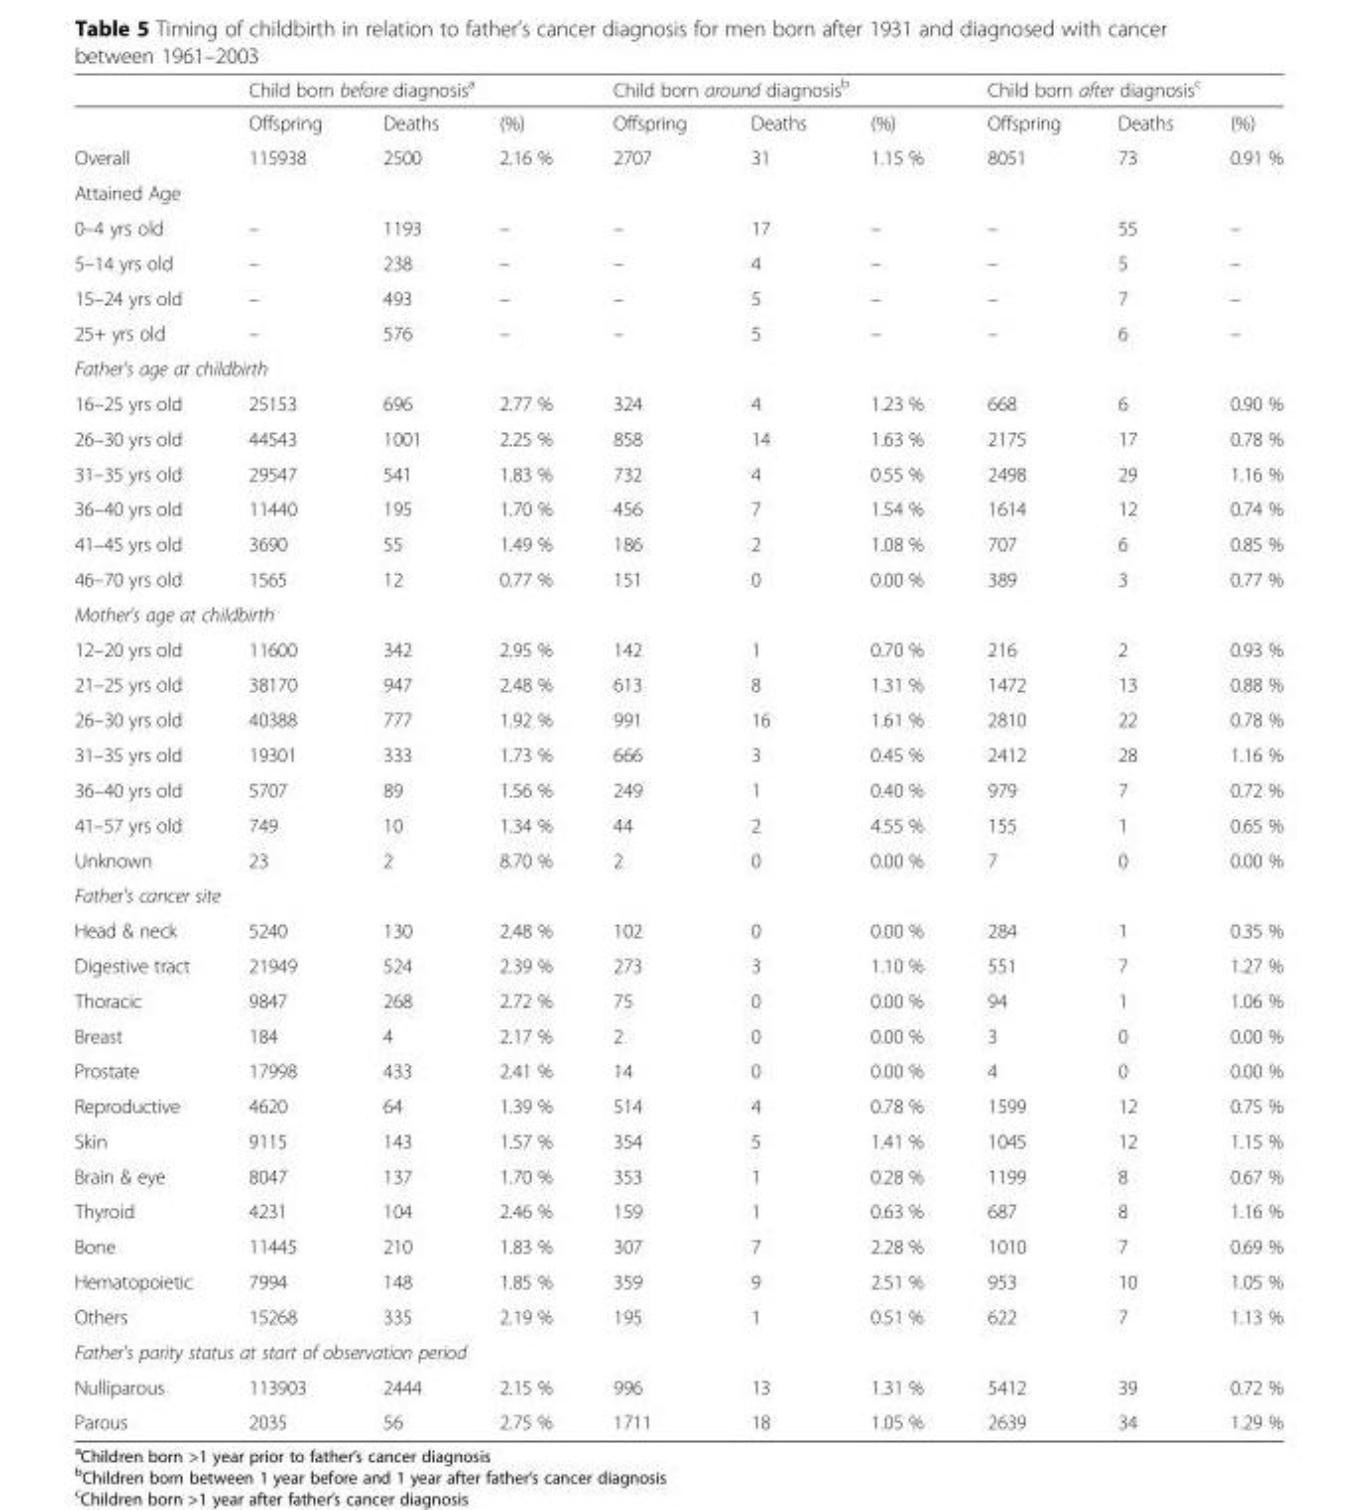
<table><thead><tr><td rowspan="2"></td><td colspan="3">Child born before diagnosis<sup>a</sup></td><td colspan="3">Child born around diagnosis<sup>b</sup></td><td colspan="3">Child born after diagnosis<sup>c</sup></td></tr><tr><td>Offspring</td><td>Deaths</td><td>(%)</td><td>Offspring</td><td>Deaths</td><td>(%)</td><td>Offspring</td><td>Deaths</td><td>(%)</td></tr></thead><tbody><tr><td>Overall</td><td>115938</td><td>2500</td><td>2.16 %</td><td>2707</td><td>31</td><td>1.15 %</td><td>8051</td><td>73</td><td>0.91 %</td></tr><tr><td colspan="10">Attained Age</td></tr><tr><td>0–4 yrs old</td><td>–</td><td>1193</td><td>–</td><td>–</td><td>17</td><td>–</td><td>–</td><td>55</td><td>–</td></tr><tr><td>5–14 yrs old</td><td>–</td><td>238</td><td>–</td><td>–</td><td>4</td><td>–</td><td>–</td><td>5</td><td>–</td></tr><tr><td>15–24 yrs old</td><td>–</td><td>493</td><td>–</td><td>–</td><td>5</td><td>–</td><td>–</td><td>7</td><td>–</td></tr><tr><td>25+ yrs old</td><td>–</td><td>576</td><td>–</td><td>–</td><td>5</td><td>–</td><td>–</td><td>6</td><td>–</td></tr><tr><td colspan="10">Father&#x27;s age at childbirth</td></tr><tr><td>16–25 yrs old</td><td>25153</td><td>696</td><td>2.77 %</td><td>324</td><td>4</td><td>1.23 %</td><td>668</td><td>6</td><td>0.90 %</td></tr><tr><td>26–30 yrs old</td><td>44543</td><td>1001</td><td>2.25 %</td><td>858</td><td>14</td><td>1.63 %</td><td>2175</td><td>17</td><td>0.78 %</td></tr><tr><td>31–35 yrs old</td><td>29547</td><td>541</td><td>1.83 %</td><td>732</td><td>4</td><td>0.55 %</td><td>2498</td><td>29</td><td>1.16 %</td></tr><tr><td>36–40 yrs old</td><td>11440</td><td>195</td><td>1.70 %</td><td>456</td><td>7</td><td>1.54 %</td><td>1614</td><td>12</td><td>0.74 %</td></tr><tr><td>41–45 yrs old</td><td>3690</td><td>55</td><td>1.49 %</td><td>186</td><td>2</td><td>1.08 %</td><td>707</td><td>6</td><td>0.85 %</td></tr><tr><td>46–70 yrs old</td><td>1565</td><td>12</td><td>0.77 %</td><td>151</td><td>0</td><td>0.00 %</td><td>389</td><td>3</td><td>0.77 %</td></tr><tr><td colspan="10">Mother&#x27;s age at childbirth</td></tr><tr><td>12–20 yrs old</td><td>11600</td><td>342</td><td>2.95 %</td><td>142</td><td>1</td><td>0.70 %</td><td>216</td><td>2</td><td>0.93 %</td></tr><tr><td>21–25 yrs old</td><td>38170</td><td>947</td><td>2.48 %</td><td>613</td><td>8</td><td>1.31 %</td><td>1472</td><td>13</td><td>0.88 %</td></tr><tr><td>26–30 yrs old</td><td>40388</td><td>777</td><td>1.92 %</td><td>991</td><td>16</td><td>1.61 %</td><td>2810</td><td>22</td><td>0.78 %</td></tr><tr><td>31–35 yrs old</td><td>19301</td><td>333</td><td>1.73 %</td><td>666</td><td>3</td><td>0.45 %</td><td>2412</td><td>28</td><td>1.16 %</td></tr><tr><td>36–40 yrs old</td><td>5707</td><td>89</td><td>1.56 %</td><td>249</td><td>1</td><td>0.40 %</td><td>979</td><td>7</td><td>0.72 %</td></tr><tr><td>41–57 yrs old</td><td>749</td><td>10</td><td>1.34 %</td><td>44</td><td>2</td><td>4.55 %</td><td>155</td><td>1</td><td>0.65 %</td></tr><tr><td>Unknown</td><td>23</td><td>2</td><td>8.70 %</td><td>2</td><td>0</td><td>0.00 %</td><td>7</td><td>0</td><td>0.00 %</td></tr><tr><td colspan="10">Father&#x27;s cancer site</td></tr><tr><td>Head &amp; neck</td><td>5240</td><td>130</td><td>2.48 %</td><td>102</td><td>0</td><td>0.00 %</td><td>284</td><td>1</td><td>0.35 %</td></tr><tr><td>Digestive tract</td><td>21949</td><td>524</td><td>2.39 %</td><td>273</td><td>3</td><td>1.10 %</td><td>551</td><td>7</td><td>1.27 %</td></tr><tr><td>Thoracic</td><td>9847</td><td>268</td><td>2.72 %</td><td>75</td><td>0</td><td>0.00 %</td><td>94</td><td>1</td><td>1.06 %</td></tr><tr><td>Breast</td><td>184</td><td>4</td><td>2.17 %</td><td>2</td><td>0</td><td>0.00 %</td><td>3</td><td>0</td><td>0.00 %</td></tr><tr><td>Prostate</td><td>17998</td><td>433</td><td>2.41 %</td><td>14</td><td>0</td><td>0.00 %</td><td>4</td><td>0</td><td>0.00 %</td></tr><tr><td>Reproductive</td><td>4620</td><td>64</td><td>1.39 %</td><td>514</td><td>4</td><td>0.78 %</td><td>1599</td><td>12</td><td>0.75 %</td></tr><tr><td>Skin</td><td>9115</td><td>143</td><td>1.57 %</td><td>354</td><td>5</td><td>1.41 %</td><td>1045</td><td>12</td><td>1.15 %</td></tr><tr><td>Brain &amp; eye</td><td>8047</td><td>137</td><td>1.70 %</td><td>353</td><td>1</td><td>0.28 %</td><td>1199</td><td>8</td><td>0.67 %</td></tr><tr><td>Thyroid</td><td>4231</td><td>104</td><td>2.46 %</td><td>159</td><td>1</td><td>0.63 %</td><td>687</td><td>8</td><td>1.16 %</td></tr><tr><td>Bone</td><td>11445</td><td>210</td><td>1.83 %</td><td>307</td><td>7</td><td>2.28 %</td><td>1010</td><td>7</td><td>0.69 %</td></tr><tr><td>Hematopoietic</td><td>7994</td><td>148</td><td>1.85 %</td><td>359</td><td>9</td><td>2.51 %</td><td>953</td><td>10</td><td>1.05 %</td></tr><tr><td>Others</td><td>15268</td><td>335</td><td>2.19 %</td><td>195</td><td>1</td><td>0.51 %</td><td>622</td><td>7</td><td>1.13 %</td></tr><tr><td colspan="10">Father&#x27;s parity status at start of observation period</td></tr><tr><td>Nulliparous</td><td>113903</td><td>2444</td><td>2.15 %</td><td>996</td><td>13</td><td>1.31 %</td><td>5412</td><td>39</td><td>0.72 %</td></tr><tr><td>Parous</td><td>2035</td><td>56</td><td>2.75 %</td><td>1711</td><td>18</td><td>1.05 %</td><td>2639</td><td>34</td><td>1.29 %</td></tr></tbody></table>